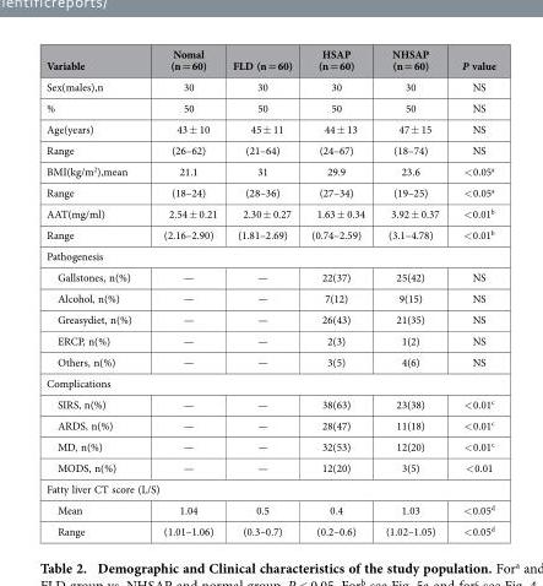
<table><thead><tr><td>Variable</td><td>Nomal (n = 60)</td><td>FLD (n = 60)</td><td>HSAP (n = 60)</td><td>NHSAP (n = 60)</td><td>P value</td></tr></thead><tbody><tr><td>Sex(males),n</td><td>30</td><td>30</td><td>30</td><td>30</td><td>NS</td></tr><tr><td>%</td><td>50</td><td>50</td><td>50</td><td>50</td><td>NS</td></tr><tr><td>Age(years)</td><td>43 ± 10</td><td>45 ± 11</td><td>44 ± 13</td><td>47 ± 15</td><td>NS</td></tr><tr><td>Range</td><td>(26–62)</td><td>(21–64)</td><td>(24–67)</td><td>(18–74)</td><td>NS</td></tr><tr><td>BMI(kg/m<sup>2</sup>),mean</td><td>21.1</td><td>31</td><td>29.9</td><td>23.6</td><td>&lt; 0.05<sup>a</sup></td></tr><tr><td>Range</td><td>(18–24)</td><td>(28–36)</td><td>(27–34)</td><td>(19–25)</td><td>&lt; 0.05<sup>a</sup></td></tr><tr><td>AAT(mg/ml)</td><td>2.54 ± 0.21</td><td>2.30 ± 0.27</td><td>1.63 ± 0.34</td><td>3.92 ± 0.37</td><td>&lt; 0.01<sup>b</sup></td></tr><tr><td>Range</td><td>(2.16–2.90)</td><td>(1.81–2.69)</td><td>(0.74–2.59)</td><td>(3.1–4.78)</td><td>&lt; 0.01<sup>b</sup></td></tr><tr><td colspan="6">Pathogenesis</td></tr><tr><td>Gallstones, n(%)</td><td>—</td><td>—</td><td>22(37)</td><td>25(42)</td><td>NS</td></tr><tr><td>Alcohol, n(%)</td><td>—</td><td>—</td><td>7(12)</td><td>9(15)</td><td>NS</td></tr><tr><td>Greasydiet, n(%)</td><td>—</td><td>—</td><td>26(43)</td><td>21(35)</td><td>NS</td></tr><tr><td>ERCP, n(%)</td><td>—</td><td>—</td><td>2(3)</td><td>1(2)</td><td>NS</td></tr><tr><td>Others, n(%)</td><td>—</td><td>—</td><td>3(5)</td><td>4(6)</td><td>NS</td></tr><tr><td colspan="6">Complications</td></tr><tr><td>SIRS, n(%)</td><td>—</td><td>—</td><td>38(63)</td><td>23(38)</td><td>&lt; 0.01<sup>c</sup></td></tr><tr><td>ARDS, n(%)</td><td>—</td><td>—</td><td>28(47)</td><td>11(18)</td><td>&lt; 0.01<sup>c</sup></td></tr><tr><td>MD, n(%)</td><td>—</td><td>—</td><td>32(53)</td><td>12(20)</td><td>&lt; 0.01<sup>c</sup></td></tr><tr><td>MODS, n(%)</td><td>—</td><td>—</td><td>12(20)</td><td>3(5)</td><td>&lt; 0.01</td></tr><tr><td colspan="6">Fatty liver CT score (L/S)</td></tr><tr><td>Mean</td><td>1.04</td><td>0.5</td><td>0.4</td><td>1.03</td><td>&lt; 0.05<sup>d</sup></td></tr><tr><td>Range</td><td>(1.01–1.06)</td><td>(0.3–0.7)</td><td>(0.2–0.6)</td><td>(1.02–1.05)</td><td>&lt; 0.05<sup>d</sup></td></tr></tbody></table>